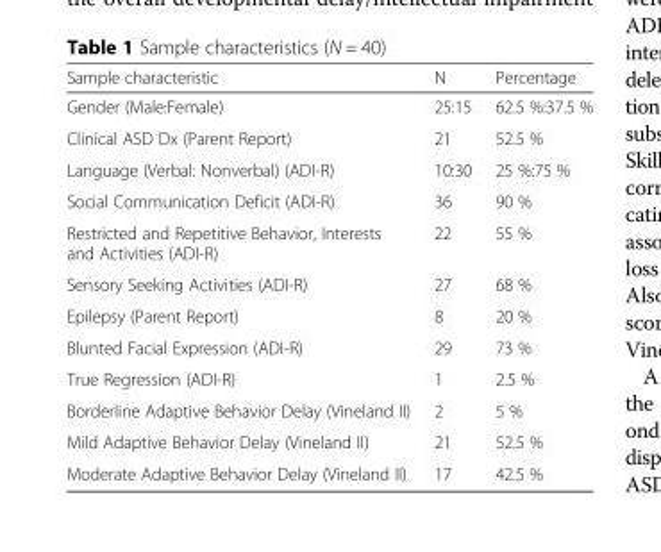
<table><thead><tr><td>Sample characteristic</td><td>N</td><td>Percentage</td></tr></thead><tbody><tr><td>Gender (Male:Female)</td><td>25:15</td><td>62.5 %:37.5 %</td></tr><tr><td>Clinical ASD Dx (Parent Report)</td><td>21</td><td>52.5 %</td></tr><tr><td>Language (Verbal: Nonverbal) (ADI-R)</td><td>10:30</td><td>25 %:75 %</td></tr><tr><td>Social Communication Deficit (ADI-R)</td><td>36</td><td>90 %</td></tr><tr><td>Restricted and Repetitive Behavior, Interests and Activities (ADI-R)</td><td>22</td><td>55 %</td></tr><tr><td>Sensory Seeking Activities (ADI-R)</td><td>27</td><td>68 %</td></tr><tr><td>Epilepsy (Parent Report)</td><td>8</td><td>20 %</td></tr><tr><td>Blunted Facial Expression (ADI-R)</td><td>29</td><td>73 %</td></tr><tr><td>True Regression (ADI-R)</td><td>1</td><td>2.5 %</td></tr><tr><td>Borderline Adaptive Behavior Delay (Vineland II)</td><td>2</td><td>5 %</td></tr><tr><td>Mild Adaptive Behavior Delay (Vineland II)</td><td>21</td><td>52.5 %</td></tr><tr><td>Moderate Adaptive Behavior Delay (Vineland II)</td><td>17</td><td>42.5 %</td></tr></tbody></table>